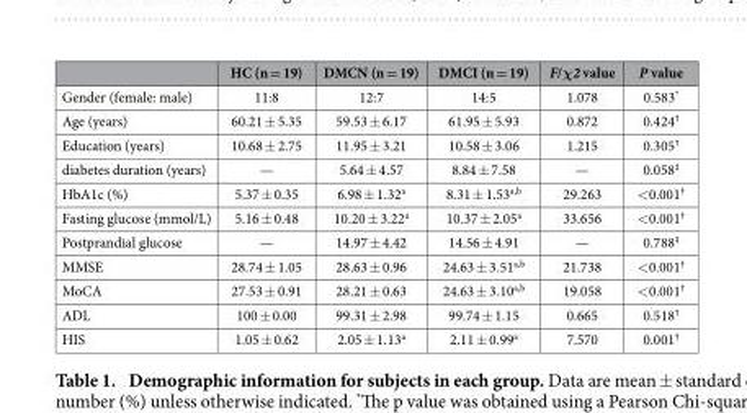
<table><thead><tr><td></td><td>HC (n = 19)</td><td>DMCN (n = 19)</td><td>DMCI (n = 19)</td><td>F/χ2 value</td><td>P value</td></tr></thead><tbody><tr><td>Gender (female: male)</td><td>11:8</td><td>12:7</td><td>14:5</td><td>1.078</td><td>0.583*</td></tr><tr><td>Age (years)</td><td>60.21 ± 5.35</td><td>59.53 ± 6.17</td><td>61.95 ± 5.93</td><td>0.872</td><td>0.424<sup>†</sup></td></tr><tr><td>Education (years)</td><td>10.68 ± 2.75</td><td>11.95 ± 3.21</td><td>10.58 ± 3.06</td><td>1.215</td><td>0.305<sup>†</sup></td></tr><tr><td>diabetes duration (years)</td><td>—</td><td>5.64 ± 4.57</td><td>8.84 ± 7.58</td><td>—</td><td>0.058<sup>‡</sup></td></tr><tr><td>HbA1c (%)</td><td>5.37 ± 0.35</td><td>6.98 ± 1.32<sup>a</sup></td><td>8.31 ± 1.53<sup>a,b</sup></td><td>29.263</td><td>&lt; 0.001<sup>†</sup></td></tr><tr><td>Fasting glucose (mmol/L)</td><td>5.16 ± 0.48</td><td>10.20 ± 3.22<sup>a</sup></td><td>10.37 ± 2.05<sup>a</sup></td><td>33.656</td><td>&lt; 0.001<sup>†</sup></td></tr><tr><td>Postprandial glucose</td><td>—</td><td>14.97 ± 4.42</td><td>14.56 ± 4.91</td><td>—</td><td>0.788<sup>‡</sup></td></tr><tr><td>MMSE</td><td>28.74 ± 1.05</td><td>28.63 ± 0.96</td><td>24.63 ± 3.51<sup>a,b</sup></td><td>21.738</td><td>&lt; 0.001<sup>†</sup></td></tr><tr><td>MoCA</td><td>27.53 ± 0.91</td><td>28.21 ± 0.63</td><td>24.63 ± 3.10<sup>a,b</sup></td><td>19.058</td><td>&lt; 0.001<sup>†</sup></td></tr><tr><td>ADL</td><td>100 ± 0.00</td><td>99.31 ± 2.98</td><td>99.74 ± 1.15</td><td>0.665</td><td>0.518<sup>†</sup></td></tr><tr><td>HIS</td><td>1.05 ± 0.62</td><td>2.05 ± 1.13<sup>a</sup></td><td>2.11 ± 0.99<sup>a</sup></td><td>7.570</td><td>0.001<sup>†</sup></td></tr></tbody></table>